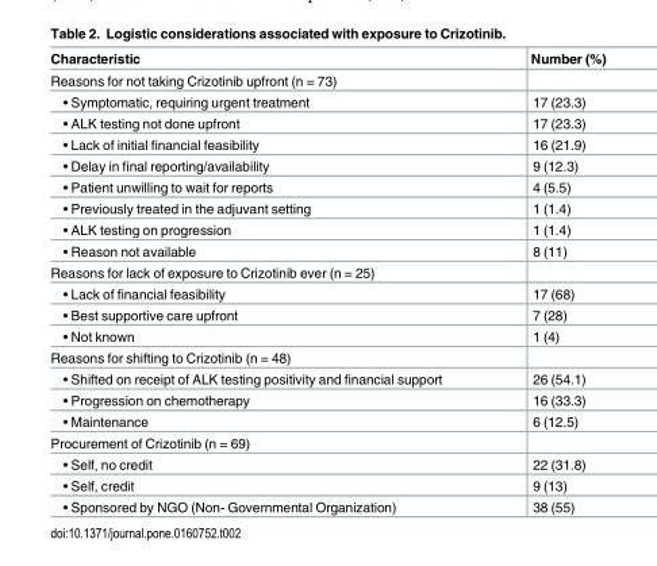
<table><thead><tr><td>Characteristic</td><td>Number (%)</td></tr></thead><tbody><tr><td colspan="2">Reasons for not taking Crizotinib upfront (n = 73)</td></tr><tr><td>• Symptomatic, requiring urgent treatment</td><td>17 (23.3)</td></tr><tr><td>• ALK testing not done upfront</td><td>17 (23.3)</td></tr><tr><td>• Lack of initial financial feasibility</td><td>16 (21.9)</td></tr><tr><td>• Delay in final reporting/availability</td><td>9 (12.3)</td></tr><tr><td>• Patient unwilling to wait for reports</td><td>4 (5.5)</td></tr><tr><td>• Previously treated in the adjuvant setting</td><td>1 (1.4)</td></tr><tr><td>• ALK testing on progression</td><td>1 (1.4)</td></tr><tr><td>• Reason not available</td><td>8 (11)</td></tr><tr><td colspan="2">Reasons for lack of exposure to Crizotinib ever (n = 25)</td></tr><tr><td>• Lack of financial feasibility</td><td>17 (68)</td></tr><tr><td>• Best supportive care upfront</td><td>7 (28)</td></tr><tr><td>• Not known</td><td>1 (4)</td></tr><tr><td colspan="2">Reasons for shifting to Crizotinib (n = 48)</td></tr><tr><td>• Shifted on receipt of ALK testing positivity and financial support</td><td>26 (54.1)</td></tr><tr><td>• Progression on chemotherapy</td><td>16 (33.3)</td></tr><tr><td>• Maintenance</td><td>6 (12.5)</td></tr><tr><td colspan="2">Procurement of Crizotinib (n = 69)</td></tr><tr><td>• Self, no credit</td><td>22 (31.8)</td></tr><tr><td>• Self, credit</td><td>9 (13)</td></tr><tr><td>• Sponsored by NGO (Non- Governmental Organization)</td><td>38 (55)</td></tr></tbody></table>